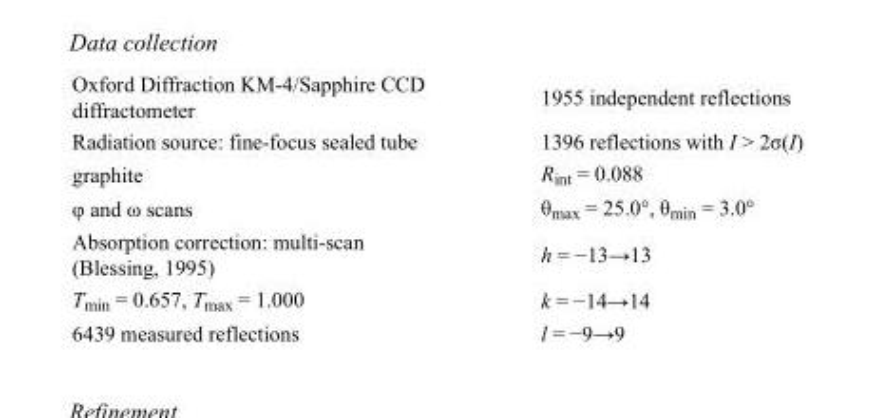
<table><tbody><tr><td>Oxford Diffraction KM-4/Sapphire CCD diffractometer</td><td>1955 independent reflections</td></tr><tr><td>Radiation source: fine-focus sealed tube</td><td>1396 reflections with I &gt; 2σ(I)</td></tr><tr><td>graphite</td><td>R<sub>int</sub> = 0.088</td></tr><tr><td>φ and ω scans</td><td>θ<sub>max</sub> = 25.0°, θ<sub>min</sub> = 3.0°</td></tr><tr><td>Absorption correction: multi-scan (Blessing, 1995)</td><td>h = −13→13</td></tr><tr><td>T<sub>min</sub> = 0.657, T<sub>max</sub> = 1.000</td><td>k = −14→14</td></tr><tr><td>6439 measured reflections</td><td>l = −9→9</td></tr></tbody></table>